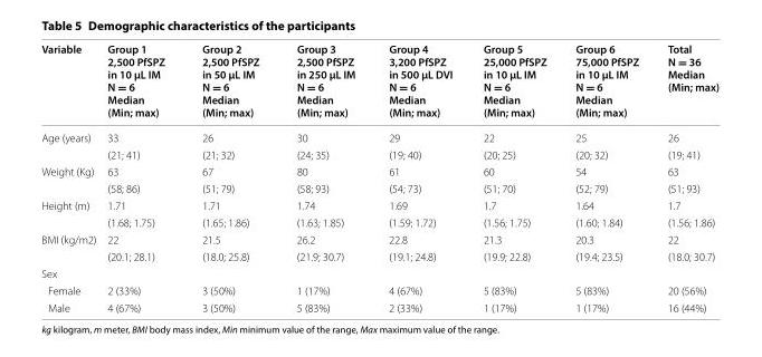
<table><thead><tr><td>Variable</td><td>Group 1 2,500 PfSPZ in 10 µL IM N = 6 Median (Min; max)</td><td>Group 2 2,500 PfSPZ in 50 µL IM N = 6 Median (Min; max)</td><td>Group 3 2,500 PfSPZ in 250 µL IM N = 6 Median (Min; max)</td><td>Group 4 3,200 PfSPZ in 500 µL DVI N = 6 Median (Min; max)</td><td>Group 5 25,000 PfSPZ in 10 µL IM N = 6 Median (Min; max)</td><td>Group 6 75,000 PfSPZ in 10 µL IM N = 6 Median (Min; max)</td><td>Total N = 36 Median (Min; max)</td></tr></thead><tbody><tr><td rowspan="2">Age (years)</td><td>33</td><td>26</td><td>30</td><td>29</td><td>22</td><td>25</td><td>26</td></tr><tr><td>(21; 41)</td><td>(21; 32)</td><td>(24; 35)</td><td>(19; 40)</td><td>(20; 25)</td><td>(20; 32)</td><td>(19; 41)</td></tr><tr><td rowspan="2">Weight (Kg)</td><td>63</td><td>67</td><td>80</td><td>61</td><td>60</td><td>54</td><td>63</td></tr><tr><td>(58; 86)</td><td>(51; 79)</td><td>(58; 93)</td><td>(54; 73)</td><td>(51; 70)</td><td>(52; 79)</td><td>(51; 93)</td></tr><tr><td rowspan="2">Height (m)</td><td>1.71</td><td>1.71</td><td>1.74</td><td>1.69</td><td>1.7</td><td>1.64</td><td>1.7</td></tr><tr><td>(1.68; 1.75)</td><td>(1.65; 1.86)</td><td>(1.63; 1.85)</td><td>(1.59; 1.72)</td><td>(1.56; 1.75)</td><td>(1.60; 1.84)</td><td>(1.56; 1.86)</td></tr><tr><td rowspan="2">BMI (kg/m2)</td><td>22</td><td>21.5</td><td>26.2</td><td>22.8</td><td>21.3</td><td>20.3</td><td>22</td></tr><tr><td>(20.1; 28.1)</td><td>(18.0; 25.8)</td><td>(21.9; 30.7)</td><td>(19.1; 24.8)</td><td>(19.9; 22.8)</td><td>(19.4; 23.5)</td><td>(18.0; 30.7)</td></tr><tr><td colspan="8">Sex</td></tr><tr><td>Female</td><td>2 (33%)</td><td>3 (50%)</td><td>1 (17%)</td><td>4 (67%)</td><td>5 (83%)</td><td>5 (83%)</td><td>20 (56%)</td></tr><tr><td>Male</td><td>4 (67%)</td><td>3 (50%)</td><td>5 (83%)</td><td>2 (33%)</td><td>1 (17%)</td><td>1 (17%)</td><td>16 (44%)</td></tr></tbody></table>